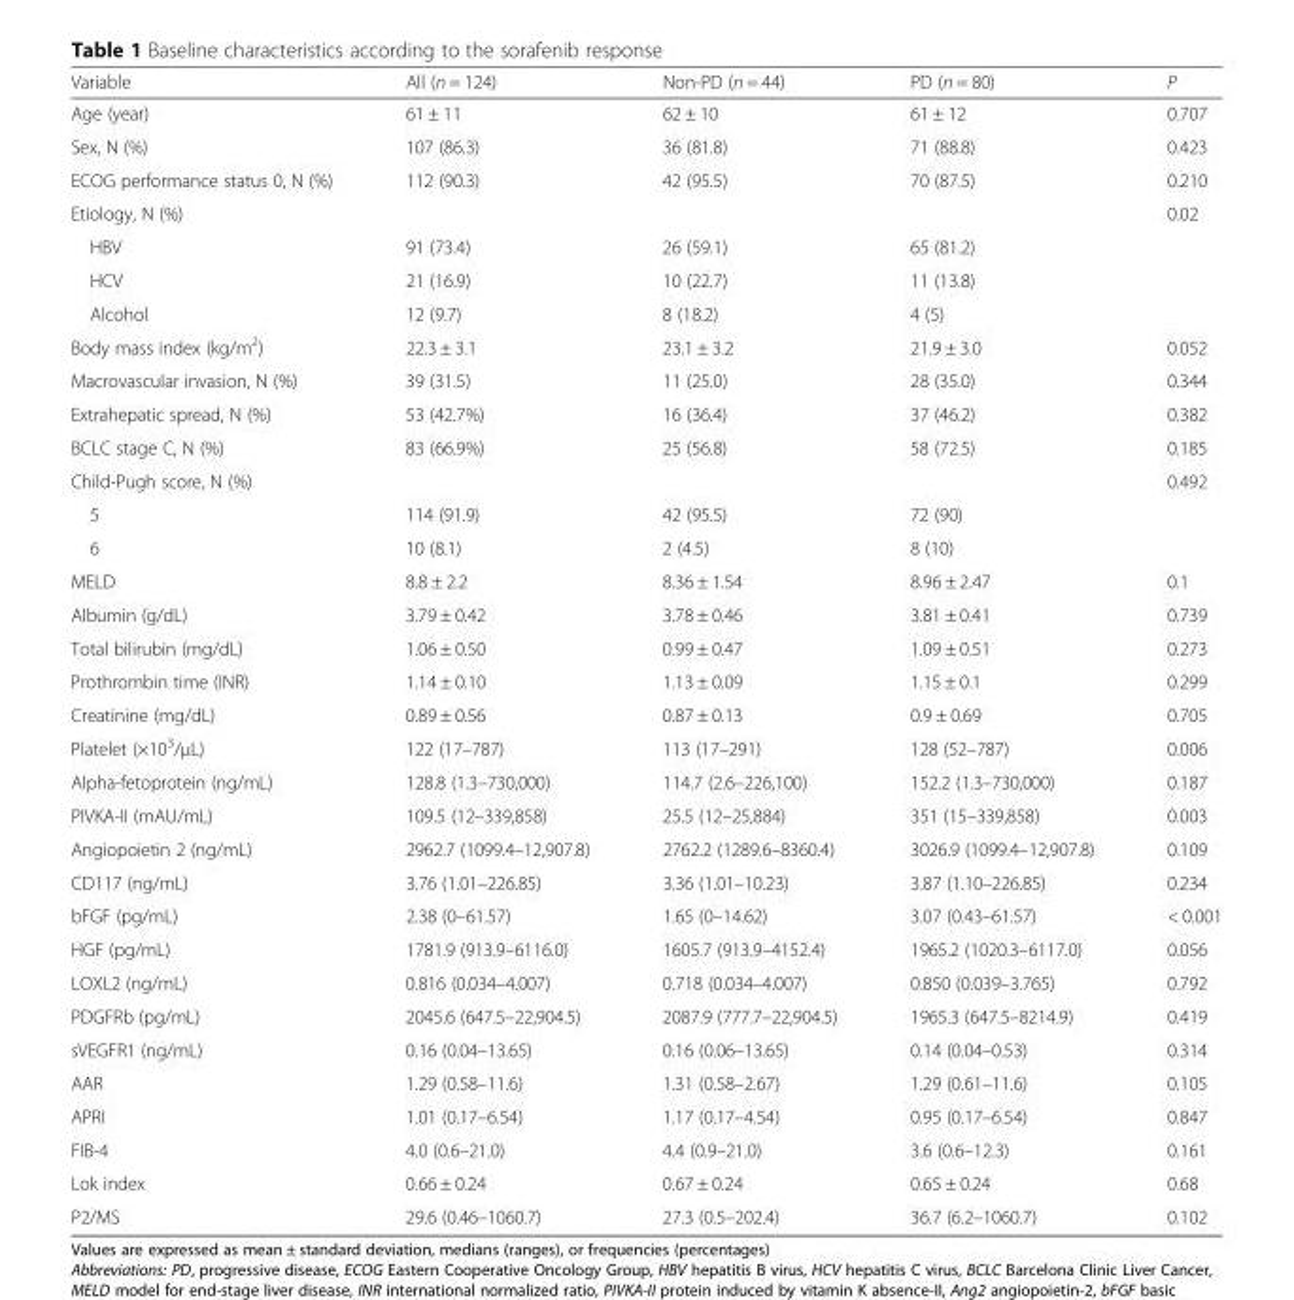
<table><thead><tr><td>Variable</td><td>All (n = 124)</td><td>Non-PD (n = 44)</td><td>PD (n = 80)</td><td>P</td></tr></thead><tbody><tr><td>Age (year)</td><td>61 ± 11</td><td>62 ± 10</td><td>61 ± 12</td><td>0.707</td></tr><tr><td>Sex, N (%)</td><td>107 (86.3)</td><td>36 (81.8)</td><td>71 (88.8)</td><td>0.423</td></tr><tr><td>ECOG performance status 0, N (%)</td><td>112 (90.3)</td><td>42 (95.5)</td><td>70 (87.5)</td><td>0.210</td></tr><tr><td>Etiology, N (%)</td><td></td><td></td><td></td><td>0.02</td></tr><tr><td>HBV</td><td>91 (73.4)</td><td>26 (59.1)</td><td>65 (81.2)</td><td></td></tr><tr><td>HCV</td><td>21 (16.9)</td><td>10 (22.7)</td><td>11 (13.8)</td><td></td></tr><tr><td>Alcohol</td><td>12 (9.7)</td><td>8 (18.2)</td><td>4 (5)</td><td></td></tr><tr><td>Body mass index (kg/m<sup>2</sup>)</td><td>22.3 ± 3.1</td><td>23.1 ± 3.2</td><td>21.9 ± 3.0</td><td>0.052</td></tr><tr><td>Macrovascular invasion, N (%)</td><td>39 (31.5)</td><td>11 (25.0)</td><td>28 (35.0)</td><td>0.344</td></tr><tr><td>Extrahepatic spread, N (%)</td><td>53 (42.7%)</td><td>16 (36.4)</td><td>37 (46.2)</td><td>0.382</td></tr><tr><td>BCLC stage C, N (%)</td><td>83 (66.9%)</td><td>25 (56.8)</td><td>58 (72.5)</td><td>0.185</td></tr><tr><td>Child-Pugh score, N (%)</td><td></td><td></td><td></td><td>0.492</td></tr><tr><td>5</td><td>114 (91.9)</td><td>42 (95.5)</td><td>72 (90)</td><td></td></tr><tr><td>6</td><td>10 (8.1)</td><td>2 (4.5)</td><td>8 (10)</td><td></td></tr><tr><td>MELD</td><td>8.8 ± 2.2</td><td>8.36 ± 1.54</td><td>8.96 ± 2.47</td><td>0.1</td></tr><tr><td>Albumin (g/dL)</td><td>3.79 ± 0.42</td><td>3.78 ± 0.46</td><td>3.81 ± 0.41</td><td>0.739</td></tr><tr><td>Total bilirubin (mg/dL)</td><td>1.06 ± 0.50</td><td>0.99 ± 0.47</td><td>1.09 ± 0.51</td><td>0.273</td></tr><tr><td>Prothrombin time (INR)</td><td>1.14 ± 0.10</td><td>1.13 ± 0.09</td><td>1.15 ± 0.1</td><td>0.299</td></tr><tr><td>Creatinine (mg/dL)</td><td>0.89 ± 0.56</td><td>0.87 ± 0.13</td><td>0.9 ± 0.69</td><td>0.705</td></tr><tr><td>Platelet (×10<sup>3</sup>/μL)</td><td>122 (17–787)</td><td>113 (17–291)</td><td>128 (52–787)</td><td>0.006</td></tr><tr><td>Alpha-fetoprotein (ng/mL)</td><td>128.8 (1.3–730,000)</td><td>114.7 (2.6–226,100)</td><td>152.2 (1.3–730,000)</td><td>0.187</td></tr><tr><td>PIVKA-II (mAU/mL)</td><td>109.5 (12–339,858)</td><td>25.5 (12–25,884)</td><td>351 (15–339,858)</td><td>0.003</td></tr><tr><td>Angiopoietin 2 (ng/mL)</td><td>2962.7 (1099.4–12,907.8)</td><td>2762.2 (1289.6–8360.4)</td><td>3026.9 (1099.4–12,907.8)</td><td>0.109</td></tr><tr><td>CD117 (ng/mL)</td><td>3.76 (1.01–226.85)</td><td>3.36 (1.01–10.23)</td><td>3.87 (1.10–226.85)</td><td>0.234</td></tr><tr><td>bFGF (pg/mL)</td><td>2.38 (0–61.57)</td><td>1.65 (0–14.62)</td><td>3.07 (0.43–61.57)</td><td>&lt; 0.001</td></tr><tr><td>HGF (pg/mL)</td><td>1781.9 (913.9–6116.0)</td><td>1605.7 (913.9–4152.4)</td><td>1965.2 (1020.3–6117.0)</td><td>0.056</td></tr><tr><td>LOXL2 (ng/mL)</td><td>0.816 (0.034–4.007)</td><td>0.718 (0.034–4.007)</td><td>0.850 (0.039–3.765)</td><td>0.792</td></tr><tr><td>PDGFRb (pg/mL)</td><td>2045.6 (647.5–22,904.5)</td><td>2087.9 (777.7–22,904.5)</td><td>1965.3 (647.5–8214.9)</td><td>0.419</td></tr><tr><td>sVEGFR1 (ng/mL)</td><td>0.16 (0.04–13.65)</td><td>0.16 (0.06–13.65)</td><td>0.14 (0.04–0.53)</td><td>0.314</td></tr><tr><td>AAR</td><td>1.29 (0.58–11.6)</td><td>1.31 (0.58–2.67)</td><td>1.29 (0.61–11.6)</td><td>0.105</td></tr><tr><td>APRI</td><td>1.01 (0.17–6.54)</td><td>1.17 (0.17–4.54)</td><td>0.95 (0.17–6.54)</td><td>0.847</td></tr><tr><td>FIB-4</td><td>4.0 (0.6–21.0)</td><td>4.4 (0.9–21.0)</td><td>3.6 (0.6–12.3)</td><td>0.161</td></tr><tr><td>Lok index</td><td>0.66 ± 0.24</td><td>0.67 ± 0.24</td><td>0.65 ± 0.24</td><td>0.68</td></tr><tr><td>P2/MS</td><td>29.6 (0.46–1060.7)</td><td>27.3 (0.5–202.4)</td><td>36.7 (6.2–1060.7)</td><td>0.102</td></tr></tbody></table>